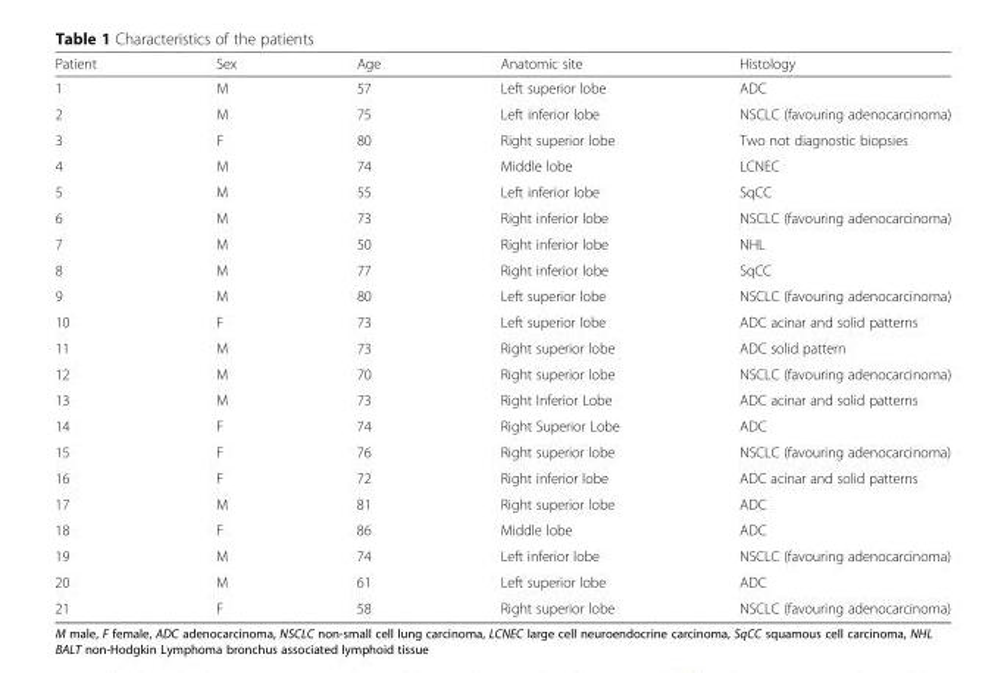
<table><thead><tr><td>Patient</td><td>Sex</td><td>Age</td><td>Anatomic site</td><td>Histology</td></tr></thead><tbody><tr><td>1</td><td>M</td><td>57</td><td>Left superior lobe</td><td>ADC</td></tr><tr><td>2</td><td>M</td><td>75</td><td>Left inferior lobe</td><td>NSCLC (favouring adenocarcinoma)</td></tr><tr><td>3</td><td>F</td><td>80</td><td>Right superior lobe</td><td>Two not diagnostic biopsies</td></tr><tr><td>4</td><td>M</td><td>74</td><td>Middle lobe</td><td>LCNEC</td></tr><tr><td>5</td><td>M</td><td>55</td><td>Left inferior lobe</td><td>SqCC</td></tr><tr><td>6</td><td>M</td><td>73</td><td>Right inferior lobe</td><td>NSCLC (favouring adenocarcinoma)</td></tr><tr><td>7</td><td>M</td><td>50</td><td>Right inferior lobe</td><td>NHL</td></tr><tr><td>8</td><td>M</td><td>77</td><td>Right inferior lobe</td><td>SqCC</td></tr><tr><td>9</td><td>M</td><td>80</td><td>Left superior lobe</td><td>NSCLC (favouring adenocarcinoma)</td></tr><tr><td>10</td><td>F</td><td>73</td><td>Left superior lobe</td><td>ADC acinar and solid patterns</td></tr><tr><td>11</td><td>M</td><td>73</td><td>Right superior lobe</td><td>ADC solid pattern</td></tr><tr><td>12</td><td>M</td><td>70</td><td>Right superior lobe</td><td>NSCLC (favouring adenocarcinoma)</td></tr><tr><td>13</td><td>M</td><td>73</td><td>Right Inferior Lobe</td><td>ADC acinar and solid patterns</td></tr><tr><td>14</td><td>F</td><td>74</td><td>Right Superior Lobe</td><td>ADC</td></tr><tr><td>15</td><td>F</td><td>76</td><td>Right superior lobe</td><td>NSCLC (favouring adenocarcinoma)</td></tr><tr><td>16</td><td>F</td><td>72</td><td>Right inferior lobe</td><td>ADC acinar and solid patterns</td></tr><tr><td>17</td><td>M</td><td>81</td><td>Right superior lobe</td><td>ADC</td></tr><tr><td>18</td><td>F</td><td>86</td><td>Middle lobe</td><td>ADC</td></tr><tr><td>19</td><td>M</td><td>74</td><td>Left inferior lobe</td><td>NSCLC (favouring adenocarcinoma)</td></tr><tr><td>20</td><td>M</td><td>61</td><td>Left superior lobe</td><td>ADC</td></tr><tr><td>21</td><td>F</td><td>58</td><td>Right superior lobe</td><td>NSCLC (favouring adenocarcinoma)</td></tr></tbody></table>